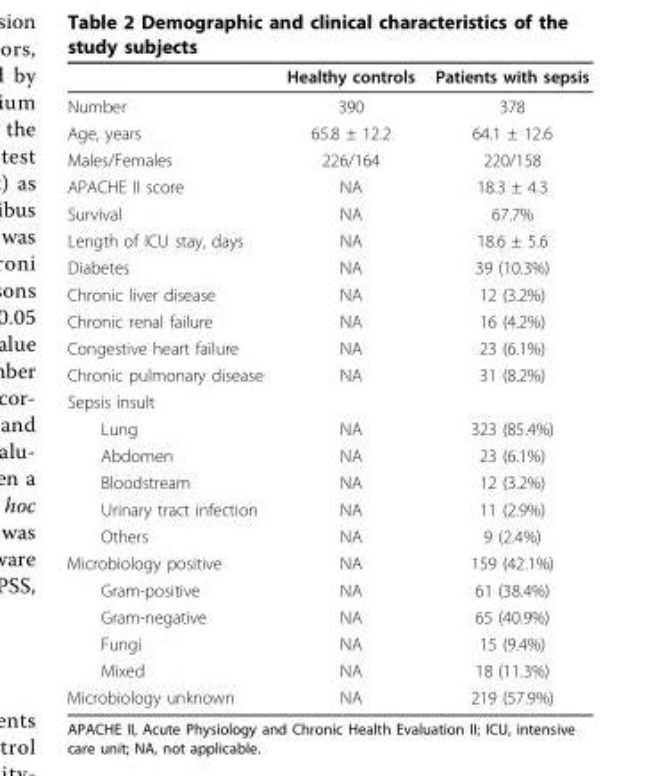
<table><thead><tr><td></td><td>Healthy controls</td><td>Patients with sepsis</td></tr></thead><tbody><tr><td>Number</td><td>390</td><td>378</td></tr><tr><td>Age, years</td><td>65.8 ± 12.2</td><td>64.1 ± 12.6</td></tr><tr><td>Males/Females</td><td>226/164</td><td>220/158</td></tr><tr><td>APACHE II score</td><td>NA</td><td>18.3 ± 4.3</td></tr><tr><td>Survival</td><td>NA</td><td>67.7%</td></tr><tr><td>Length of ICU stay, days</td><td>NA</td><td>18.6 ± 5.6</td></tr><tr><td>Diabetes</td><td>NA</td><td>39 (10.3%)</td></tr><tr><td>Chronic liver disease</td><td>NA</td><td>12 (3.2%)</td></tr><tr><td>Chronic renal failure</td><td>NA</td><td>16 (4.2%)</td></tr><tr><td>Congestive heart failure</td><td>NA</td><td>23 (6.1%)</td></tr><tr><td>Chronic pulmonary disease</td><td>NA</td><td>31 (8.2%)</td></tr><tr><td colspan="3">Sepsis insult</td></tr><tr><td>Lung</td><td>NA</td><td>323 (85.4%)</td></tr><tr><td>Abdomen</td><td>NA</td><td>23 (6.1%)</td></tr><tr><td>Bloodstream</td><td>NA</td><td>12 (3.2%)</td></tr><tr><td>Urinary tract infection</td><td>NA</td><td>11 (2.9%)</td></tr><tr><td>Others</td><td>NA</td><td>9 (2.4%)</td></tr><tr><td>Microbiology positive</td><td>NA</td><td>159 (42.1%)</td></tr><tr><td>Gram-positive</td><td>NA</td><td>61 (38.4%)</td></tr><tr><td>Gram-negative</td><td>NA</td><td>65 (40.9%)</td></tr><tr><td>Fungi</td><td>NA</td><td>15 (9.4%)</td></tr><tr><td>Mixed</td><td>NA</td><td>18 (11.3%)</td></tr><tr><td>Microbiology unknown</td><td>NA</td><td>219 (57.9%)</td></tr></tbody></table>